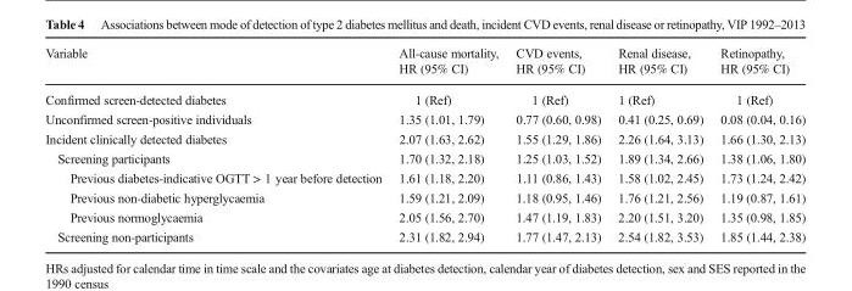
<table><thead><tr><td>Variable</td><td>All-cause mortality, HR (95% CI)</td><td>CVD events, HR (95% CI)</td><td>Renal disease, HR (95% CI)</td><td>Retinopathy, HR (95% CI)</td></tr></thead><tbody><tr><td>Confirmed screen-detected diabetes</td><td>1 (Ref)</td><td>1 (Ref)</td><td>1 (Ref)</td><td>1 (Ref)</td></tr><tr><td>Unconfirmed screen-positive individuals</td><td>1.35 (1.01, 1.79)</td><td>0.77 (0.60, 0.98)</td><td>0.41 (0.25, 0.69)</td><td>0.08 (0.04, 0.16)</td></tr><tr><td>Incident clinically detected diabetes</td><td>2.07 (1.63, 2.62)</td><td>1.55 (1.29, 1.86)</td><td>2.26 (1.64, 3.13)</td><td>1.66 (1.30, 2.13)</td></tr><tr><td>Screening participants</td><td>1.70 (1.32, 2.18)</td><td>1.25 (1.03, 1.52)</td><td>1.89 (1.34, 2.66)</td><td>1.38 (1.06, 1.80)</td></tr><tr><td>Previous diabetes-indicative OGTT &gt; 1 year before detection</td><td>1.61 (1.18, 2.20)</td><td>1.11 (0.86, 1.43)</td><td>1.58 (1.02, 2.45)</td><td>1.73 (1.24, 2.42)</td></tr><tr><td>Previous non-diabetic hyperglycaemia</td><td>1.59 (1.21, 2.09)</td><td>1.18 (0.95, 1.46)</td><td>1.76 (1.21, 2.56)</td><td>1.19 (0.87, 1.61)</td></tr><tr><td>Previous normoglycaemia</td><td>2.05 (1.56, 2.70)</td><td>1.47 (1.19, 1.83)</td><td>2.20 (1.51, 3.20)</td><td>1.35 (0.98, 1.85)</td></tr><tr><td>Screening non-participants</td><td>2.31 (1.82, 2.94)</td><td>1.77 (1.47, 2.13)</td><td>2.54 (1.82, 3.53)</td><td>1.85 (1.44, 2.38)</td></tr></tbody></table>